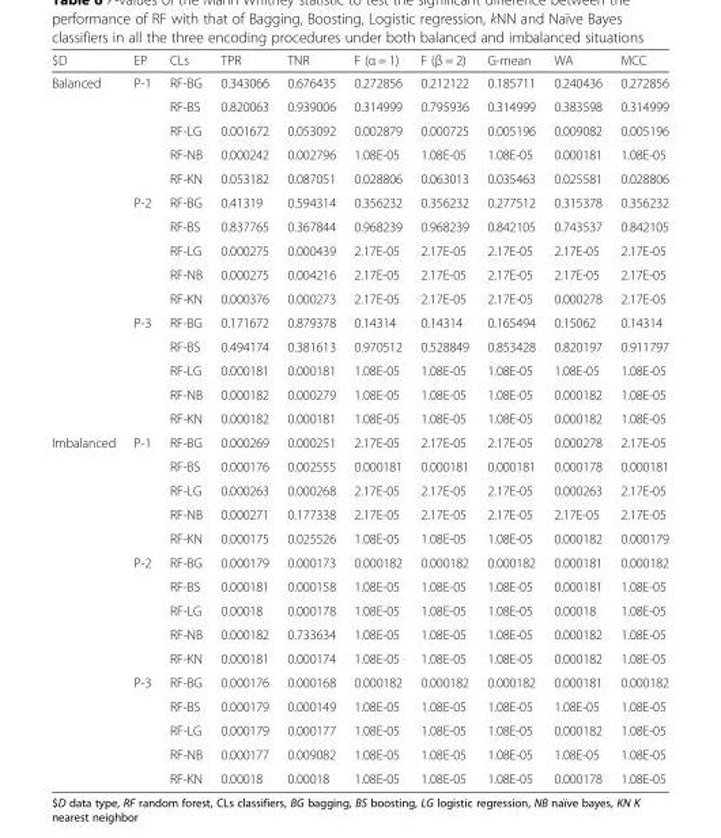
<table><thead><tr><td>$D</td><td>EP</td><td>CLs</td><td>TPR</td><td>TNR</td><td>F (α = 1)</td><td>F (β = 2)</td><td>G-mean</td><td>WA</td><td>MCC</td></tr></thead><tbody><tr><td rowspan="15">Balanced</td><td rowspan="5">P-1</td><td>RF-BG</td><td>0.343066</td><td>0.676435</td><td>0.272856</td><td>0.212122</td><td>0.185711</td><td>0.240436</td><td>0.272856</td></tr><tr><td>RF-BS</td><td>0.820063</td><td>0.939006</td><td>0.314999</td><td>0.795936</td><td>0.314999</td><td>0.383598</td><td>0.314999</td></tr><tr><td>RF-LG</td><td>0.001672</td><td>0.053092</td><td>0.002879</td><td>0.000725</td><td>0.005196</td><td>0.009082</td><td>0.005196</td></tr><tr><td>RF-NB</td><td>0.000242</td><td>0.002796</td><td>1.08E-05</td><td>1.08E-05</td><td>1.08E-05</td><td>0.000181</td><td>1.08E-05</td></tr><tr><td>RF-KN</td><td>0.053182</td><td>0.087051</td><td>0.028806</td><td>0.063013</td><td>0.035463</td><td>0.025581</td><td>0.028806</td></tr><tr><td rowspan="5">P-2</td><td>RF-BG</td><td>0.41319</td><td>0.594314</td><td>0.356232</td><td>0.356232</td><td>0.277512</td><td>0.315378</td><td>0.356232</td></tr><tr><td>RF-BS</td><td>0.837765</td><td>0.367844</td><td>0.968239</td><td>0.968239</td><td>0.842105</td><td>0.743537</td><td>0.842105</td></tr><tr><td>RF-LG</td><td>0.000275</td><td>0.000439</td><td>2.17E-05</td><td>2.17E-05</td><td>2.17E-05</td><td>2.17E-05</td><td>2.17E-05</td></tr><tr><td>RF-NB</td><td>0.000275</td><td>0.004216</td><td>2.17E-05</td><td>2.17E-05</td><td>2.17E-05</td><td>2.17E-05</td><td>2.17E-05</td></tr><tr><td>RF-KN</td><td>0.000376</td><td>0.000273</td><td>2.17E-05</td><td>2.17E-05</td><td>2.17E-05</td><td>0.000278</td><td>2.17E-05</td></tr><tr><td rowspan="5">P-3</td><td>RF-BG</td><td>0.171672</td><td>0.879378</td><td>0.14314</td><td>0.14314</td><td>0.165494</td><td>0.15062</td><td>0.14314</td></tr><tr><td>RF-BS</td><td>0.494174</td><td>0.381613</td><td>0.970512</td><td>0.528849</td><td>0.853428</td><td>0.820197</td><td>0.911797</td></tr><tr><td>RF-LG</td><td>0.000181</td><td>0.000181</td><td>1.08E-05</td><td>1.08E-05</td><td>1.08E-05</td><td>1.08E-05</td><td>1.08E-05</td></tr><tr><td>RF-NB</td><td>0.000182</td><td>0.000279</td><td>1.08E-05</td><td>1.08E-05</td><td>1.08E-05</td><td>0.000182</td><td>1.08E-05</td></tr><tr><td>RF-KN</td><td>0.000182</td><td>0.000181</td><td>1.08E-05</td><td>1.08E-05</td><td>1.08E-05</td><td>0.000182</td><td>1.08E-05</td></tr><tr><td rowspan="15">Imbalanced</td><td rowspan="5">P-1</td><td>RF-BG</td><td>0.000269</td><td>0.000251</td><td>2.17E-05</td><td>2.17E-05</td><td>2.17E-05</td><td>0.000278</td><td>2.17E-05</td></tr><tr><td>RF-BS</td><td>0.000176</td><td>0.002555</td><td>0.000181</td><td>0.000181</td><td>0.000181</td><td>0.000178</td><td>0.000181</td></tr><tr><td>RF-LG</td><td>0.000263</td><td>0.000268</td><td>2.17E-05</td><td>2.17E-05</td><td>2.17E-05</td><td>0.000263</td><td>2.17E-05</td></tr><tr><td>RF-NB</td><td>0.000271</td><td>0.177338</td><td>2.17E-05</td><td>2.17E-05</td><td>2.17E-05</td><td>2.17E-05</td><td>2.17E-05</td></tr><tr><td>RF-KN</td><td>0.000175</td><td>0.025526</td><td>1.08E-05</td><td>1.08E-05</td><td>1.08E-05</td><td>0.000182</td><td>0.000179</td></tr><tr><td rowspan="5">P-2</td><td>RF-BG</td><td>0.000179</td><td>0.000173</td><td>0.000182</td><td>0.000182</td><td>0.000182</td><td>0.000181</td><td>0.000182</td></tr><tr><td>RF-BS</td><td>0.000181</td><td>0.000158</td><td>1.08E-05</td><td>1.08E-05</td><td>1.08E-05</td><td>0.000181</td><td>1.08E-05</td></tr><tr><td>RF-LG</td><td>0.00018</td><td>0.000178</td><td>1.08E-05</td><td>1.08E-05</td><td>1.08E-05</td><td>0.00018</td><td>1.08E-05</td></tr><tr><td>RF-NB</td><td>0.000182</td><td>0.733634</td><td>1.08E-05</td><td>1.08E-05</td><td>1.08E-05</td><td>0.000182</td><td>1.08E-05</td></tr><tr><td>RF-KN</td><td>0.000181</td><td>0.000174</td><td>1.08E-05</td><td>1.08E-05</td><td>1.08E-05</td><td>0.000182</td><td>1.08E-05</td></tr><tr><td rowspan="5">P-3</td><td>RF-BG</td><td>0.000176</td><td>0.000168</td><td>0.000182</td><td>0.000182</td><td>0.000182</td><td>0.000181</td><td>0.000182</td></tr><tr><td>RF-BS</td><td>0.000179</td><td>0.000149</td><td>1.08E-05</td><td>1.08E-05</td><td>1.08E-05</td><td>1.08E-05</td><td>1.08E-05</td></tr><tr><td>RF-LG</td><td>0.000179</td><td>0.000177</td><td>1.08E-05</td><td>1.08E-05</td><td>1.08E-05</td><td>0.000182</td><td>1.08E-05</td></tr><tr><td>RF-NB</td><td>0.000177</td><td>0.009082</td><td>1.08E-05</td><td>1.08E-05</td><td>1.08E-05</td><td>1.08E-05</td><td>1.08E-05</td></tr><tr><td>RF-KN</td><td>0.00018</td><td>0.00018</td><td>1.08E-05</td><td>1.08E-05</td><td>1.08E-05</td><td>0.000178</td><td>1.08E-05</td></tr></tbody></table>